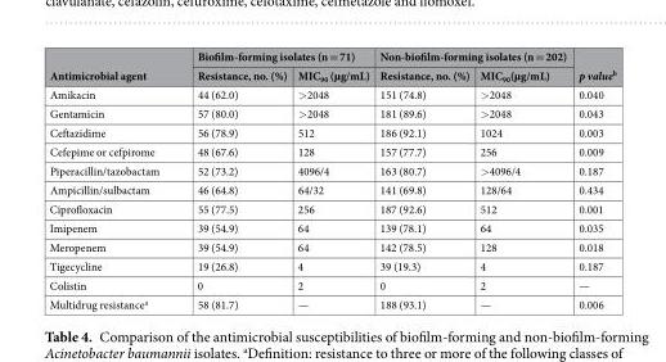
<table><thead><tr><td rowspan="2">Antimicrobial agent</td><td colspan="2">Biofilm-forming isolates (n = 71)</td><td colspan="2">Non-biofilm-forming isolates (n = 202)</td><td rowspan="2">p value<sup>b</sup></td></tr><tr><td>Resistance, no. (%)</td><td>MIC<sub>90</sub> (µg/mL)</td><td>Resistance, no. (%)</td><td>MIC<sub>90</sub>(µg/mL)</td></tr></thead><tbody><tr><td>Amikacin</td><td>44 (62.0)</td><td>&gt;2048</td><td>151 (74.8)</td><td>&gt;2048</td><td>0.040</td></tr><tr><td>Gentamicin</td><td>57 (80.0)</td><td>&gt;2048</td><td>181 (89.6)</td><td>&gt;2048</td><td>0.043</td></tr><tr><td>Ceftazidime</td><td>56 (78.9)</td><td>512</td><td>186 (92.1)</td><td>1024</td><td>0.003</td></tr><tr><td>Cefepime or cefpirome</td><td>48 (67.6)</td><td>128</td><td>157 (77.7)</td><td>256</td><td>0.009</td></tr><tr><td>Piperacillin/tazobactam</td><td>52 (73.2)</td><td>4096/4</td><td>163 (80.7)</td><td>&gt;4096/4</td><td>0.187</td></tr><tr><td>Ampicillin/sulbactam</td><td>46 (64.8)</td><td>64/32</td><td>141 (69.8)</td><td>128/64</td><td>0.434</td></tr><tr><td>Ciprofloxacin</td><td>55 (77.5)</td><td>256</td><td>187 (92.6)</td><td>512</td><td>0.001</td></tr><tr><td>Imipenem</td><td>39 (54.9)</td><td>64</td><td>139 (78.1)</td><td>64</td><td>0.035</td></tr><tr><td>Meropenem</td><td>39 (54.9)</td><td>64</td><td>142 (78.5)</td><td>128</td><td>0.018</td></tr><tr><td>Tigecycline</td><td>19 (26.8)</td><td>4</td><td>39 (19.3)</td><td>4</td><td>0.187</td></tr><tr><td>Colistin</td><td>0</td><td>2</td><td>0</td><td>2</td><td>—</td></tr><tr><td>Multidrug resistance<sup>a</sup></td><td>58 (81.7)</td><td>—</td><td>188 (93.1)</td><td>—</td><td>0.006</td></tr></tbody></table>